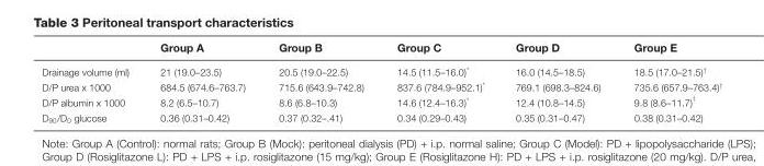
<table><thead><tr><td></td><td>Group A</td><td>Group B</td><td>Group C</td><td>Group D</td><td>Group E</td></tr></thead><tbody><tr><td>Drainage volume (ml)</td><td>21 (19.0–23.5)</td><td>20.5 (19.0–22.5)</td><td>14.5 (11.5–16.0)*</td><td>16.0 (14.5–18.5)</td><td>18.5 (17.0–21.5)<sup>†</sup></td></tr><tr><td>D/P urea x 1000</td><td>684.5 (674.6–763.7)</td><td>715.6 (643.9–742.8)</td><td>837.6 (784.9–952.1)*</td><td>769.1 (698.3–824.6)</td><td>735.6 (657.9–763.4)<sup>†</sup></td></tr><tr><td>D/P albumin x 1000</td><td>8.2 (6.5–10.7)</td><td>8.6 (6.8–10.3)</td><td>14.6 (12.4–16.3)*</td><td>12.4 (10.8–14.5)</td><td>9.8 (8.6–11.7) †</td></tr><tr><td>D<sub>90</sub>/D<sub>0</sub> glucose</td><td>0.36 (0.31–0.42)</td><td>0.37 (0.32–.41)</td><td>0.34 (0.29–0.43)</td><td>0.35 (0.31–0.47)</td><td>0.38 (0.31–0.42)</td></tr></tbody></table>